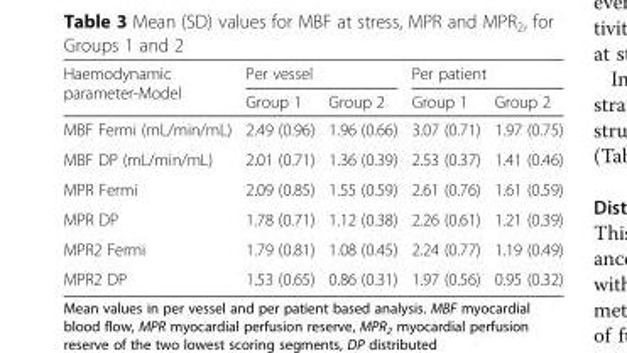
<table><thead><tr><td rowspan="2">Haemodynamic parameter-Model</td><td colspan="2">Per vessel</td><td colspan="2">Per patient</td></tr><tr><td>Group 1</td><td>Group 2</td><td>Group 1</td><td>Group 2</td></tr></thead><tbody><tr><td>MBF Fermi (mL/min/mL)</td><td>2.49 (0.96)</td><td>1.96 (0.66)</td><td>3.07 (0.71)</td><td>1.97 (0.75)</td></tr><tr><td>MBF DP (mL/min/mL)</td><td>2.01 (0.71)</td><td>1.36 (0.39)</td><td>2.53 (0.37)</td><td>1.41 (0.46)</td></tr><tr><td>MPR Fermi</td><td>2.09 (0.85)</td><td>1.55 (0.59)</td><td>2.61 (0.76)</td><td>1.61 (0.59)</td></tr><tr><td>MPR DP</td><td>1.78 (0.71)</td><td>1.12 (0.38)</td><td>2.26 (0.61)</td><td>1.21 (0.39)</td></tr><tr><td>MPR2 Fermi</td><td>1.79 (0.81)</td><td>1.08 (0.45)</td><td>2.24 (0.77)</td><td>1.19 (0.49)</td></tr><tr><td>MPR2 DP</td><td>1.53 (0.65)</td><td>0.86 (0.31)</td><td>1.97 (0.56)</td><td>0.95 (0.32)</td></tr></tbody></table>